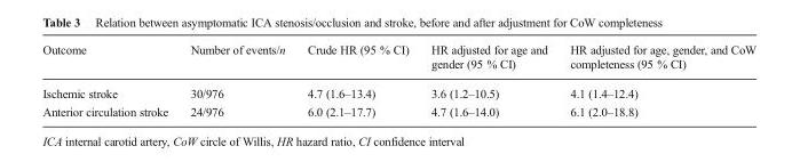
<table><thead><tr><td>Outcome</td><td>Number of events/n</td><td>Crude HR (95 % CI)</td><td>HR adjusted for age and gender (95 % CI)</td><td>HR adjusted for age, gender, and CoW completeness (95 % CI)</td></tr></thead><tbody><tr><td>Ischemic stroke</td><td>30/976</td><td>4.7 (1.6–13.4)</td><td>3.6 (1.2–10.5)</td><td>4.1 (1.4–12.4)</td></tr><tr><td>Anterior circulation stroke</td><td>24/976</td><td>6.0 (2.1–17.7)</td><td>4.7 (1.6–14.0)</td><td>6.1 (2.0–18.8)</td></tr></tbody></table>